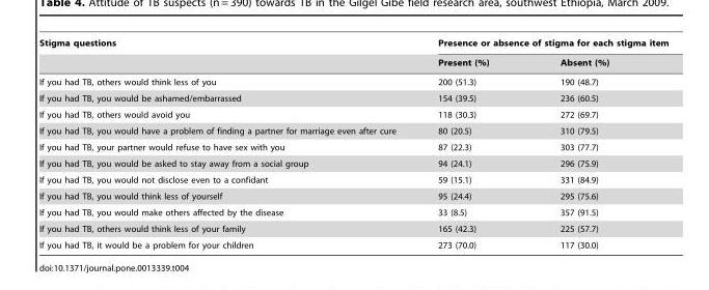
<table><thead><tr><td rowspan="2">Stigma questions</td><td colspan="2">Presence or absence of stigma for each stigma item</td></tr><tr><td>Present (%)</td><td>Absent (%)</td></tr></thead><tbody><tr><td>If you had TB, others would think less of you</td><td>200 (51.3)</td><td>190 (48.7)</td></tr><tr><td>If you had TB, you would be ashamed/embarrassed</td><td>154 (39.5)</td><td>236 (60.5)</td></tr><tr><td>If you had TB, others would avoid you</td><td>118 (30.3)</td><td>272 (69.7)</td></tr><tr><td>If you had TB, you would have a problem of finding a partner for marriage even after cure</td><td>80 (20.5)</td><td>310 (79.5)</td></tr><tr><td>If you had TB, your partner would refuse to have sex with you</td><td>87 (22.3)</td><td>303 (77.7)</td></tr><tr><td>If you had TB, you would be asked to stay away from a social group</td><td>94 (24.1)</td><td>296 (75.9)</td></tr><tr><td>If you had TB, you would not disclose even to a confidant</td><td>59 (15.1)</td><td>331 (84.9)</td></tr><tr><td>If you had TB, you would think less of yourself</td><td>95 (24.4)</td><td>295 (75.6)</td></tr><tr><td>If you had TB, you would make others affected by the disease</td><td>33 (8.5)</td><td>357 (91.5)</td></tr><tr><td>If you had TB, others would think less of your family</td><td>165 (42.3)</td><td>225 (57.7)</td></tr><tr><td>If you had TB, it would be a problem for your children</td><td>273 (70.0)</td><td>117 (30.0)</td></tr></tbody></table>